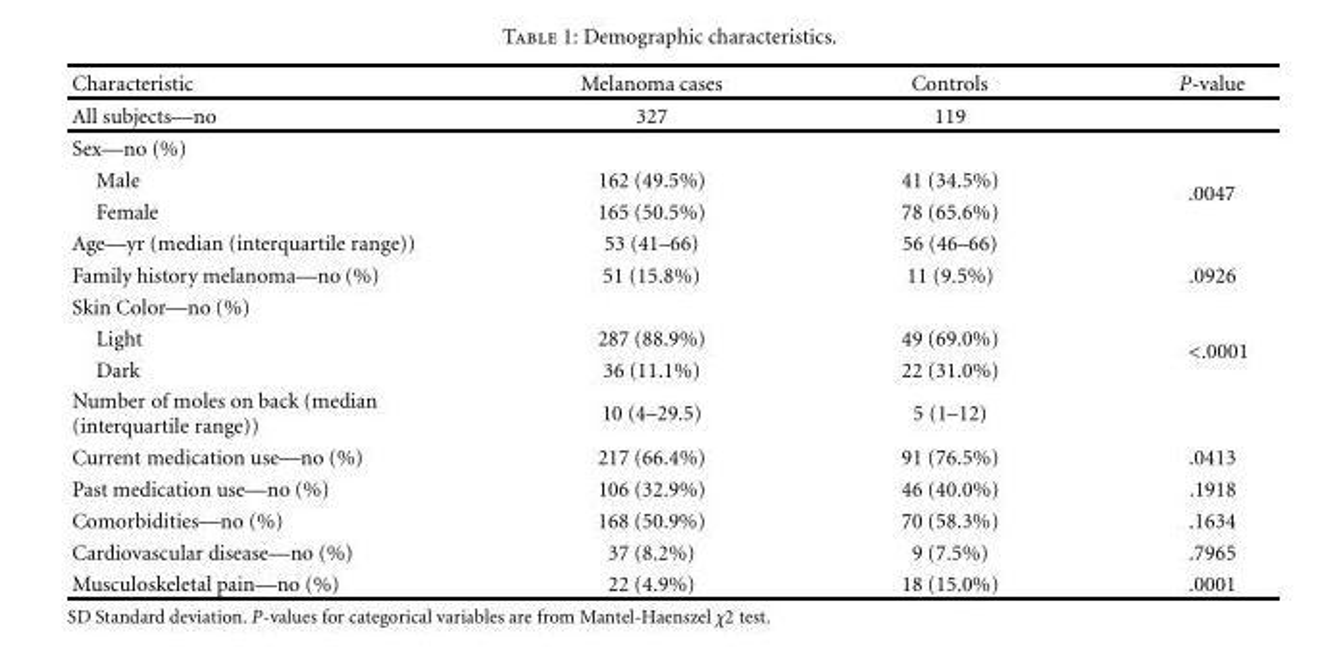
<table><thead><tr><td>Characteristic</td><td>Melanoma cases</td><td>Controls</td><td>P-value</td></tr></thead><tbody><tr><td>All subjects—no</td><td>327</td><td>119</td><td></td></tr><tr><td colspan="4">Sex—no (%)</td></tr><tr><td>Male</td><td>162 (49.5%)</td><td>41 (34.5%)</td><td rowspan="2">.0047</td></tr><tr><td>Female</td><td>165 (50.5%)</td><td>78 (65.6%)</td></tr><tr><td>Age—yr (median (interquartile range))</td><td>53 (41–66)</td><td>56 (46–66)</td><td></td></tr><tr><td>Family history melanoma—no (%)</td><td>51 (15.8%)</td><td>11 (9.5%)</td><td>.0926</td></tr><tr><td colspan="4">Skin Color—no (%)</td></tr><tr><td>Light</td><td>287 (88.9%)</td><td>49 (69.0%)</td><td rowspan="2">&lt;.0001</td></tr><tr><td>Dark</td><td>36 (11.1%)</td><td>22 (31.0%)</td></tr><tr><td>Number of moles on back (median (interquartile range))</td><td>10 (4–29.5)</td><td>5 (1–12)</td><td></td></tr><tr><td>Current medication use—no (%)</td><td>217 (66.4%)</td><td>91 (76.5%)</td><td>.0413</td></tr><tr><td>Past medication use—no (%)</td><td>106 (32.9%)</td><td>46 (40.0%)</td><td>.1918</td></tr><tr><td>Comorbidities—no (%)</td><td>168 (50.9%)</td><td>70 (58.3%)</td><td>.1634</td></tr><tr><td>Cardiovascular disease—no (%)</td><td>37 (8.2%)</td><td>9 (7.5%)</td><td>.7965</td></tr><tr><td>Musculoskeletal pain—no (%)</td><td>22 (4.9%)</td><td>18 (15.0%)</td><td>.0001</td></tr></tbody></table>